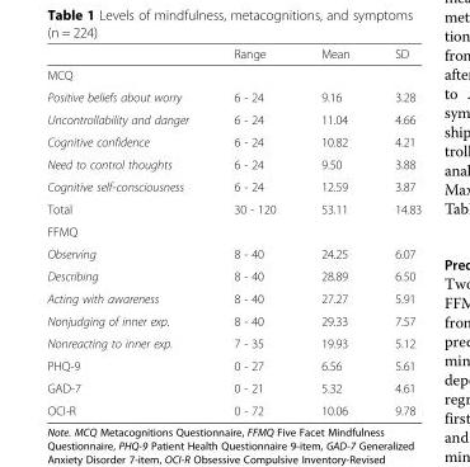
<table><thead><tr><td></td><td>Range</td><td>Mean</td><td>SD</td></tr></thead><tbody><tr><td colspan="4">MCQ</td></tr><tr><td>Positive beliefs about worry</td><td>6 - 24</td><td>9.16</td><td>3.28</td></tr><tr><td>Uncontrollability and danger</td><td>6 - 24</td><td>11.04</td><td>4.66</td></tr><tr><td>Cognitive confidence</td><td>6 - 24</td><td>10.82</td><td>4.21</td></tr><tr><td>Need to control thoughts</td><td>6 - 24</td><td>9.50</td><td>3.88</td></tr><tr><td>Cognitive self-consciousness</td><td>6 - 24</td><td>12.59</td><td>3.87</td></tr><tr><td>Total</td><td>30 - 120</td><td>53.11</td><td>14.83</td></tr><tr><td colspan="4">FFMQ</td></tr><tr><td>Observing</td><td>8 - 40</td><td>24.25</td><td>6.07</td></tr><tr><td>Describing</td><td>8 - 40</td><td>28.89</td><td>6.50</td></tr><tr><td>Acting with awareness</td><td>8 - 40</td><td>27.27</td><td>5.91</td></tr><tr><td>Nonjudging of inner exp.</td><td>8 - 40</td><td>29.33</td><td>7.57</td></tr><tr><td>Nonreacting to inner exp.</td><td>7 - 35</td><td>19.93</td><td>5.12</td></tr><tr><td>PHQ-9</td><td>0 - 27</td><td>6.56</td><td>5.61</td></tr><tr><td>GAD-7</td><td>0 - 21</td><td>5.32</td><td>4.61</td></tr><tr><td>OCI-R</td><td>0 - 72</td><td>10.06</td><td>9.78</td></tr></tbody></table>